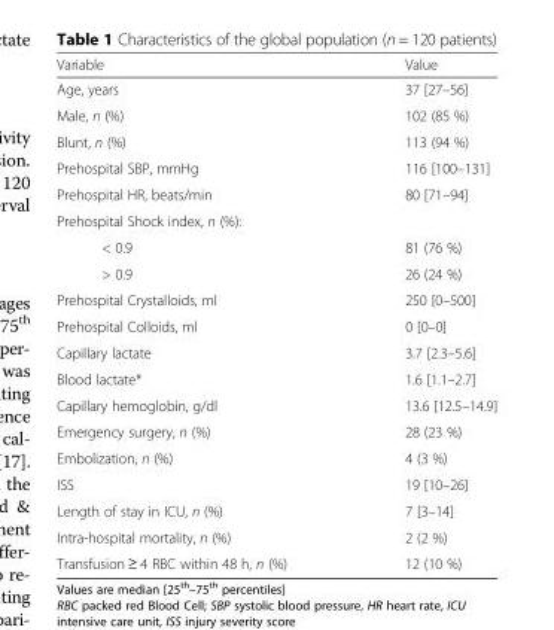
<table><thead><tr><td>Variable</td><td>Value</td></tr></thead><tbody><tr><td>Age, years</td><td>37 [27–56]</td></tr><tr><td>Male, n (%)</td><td>102 (85 %)</td></tr><tr><td>Blunt, n (%)</td><td>113 (94 %)</td></tr><tr><td>Prehospital SBP, mmHg</td><td>116 [100–131]</td></tr><tr><td>Prehospital HR, beats/min</td><td>80 [71–94]</td></tr><tr><td colspan="2">Prehospital Shock index, n (%):</td></tr><tr><td>&lt; 0.9</td><td>81 (76 %)</td></tr><tr><td>&gt; 0.9</td><td>26 (24 %)</td></tr><tr><td>Prehospital Crystalloids, ml</td><td>250 [0–500]</td></tr><tr><td>Prehospital Colloids, ml</td><td>0 [0–0]</td></tr><tr><td>Capillary lactate</td><td>3.7 [2.3–5.6]</td></tr><tr><td>Blood lactate*</td><td>1.6 [1.1–2.7]</td></tr><tr><td>Capillary hemoglobin, g/dl</td><td>13.6 [12.5–14.9]</td></tr><tr><td>Emergency surgery, n (%)</td><td>28 (23 %)</td></tr><tr><td>Embolization, n (%)</td><td>4 (3 %)</td></tr><tr><td>ISS</td><td>19 [10–26]</td></tr><tr><td>Length of stay in ICU, n (%)</td><td>7 [3–14]</td></tr><tr><td>Intra-hospital mortality, n (%)</td><td>2 (2 %)</td></tr><tr><td>Transfusion ≥ 4 RBC within 48 h, n (%)</td><td>12 (10 %)</td></tr></tbody></table>